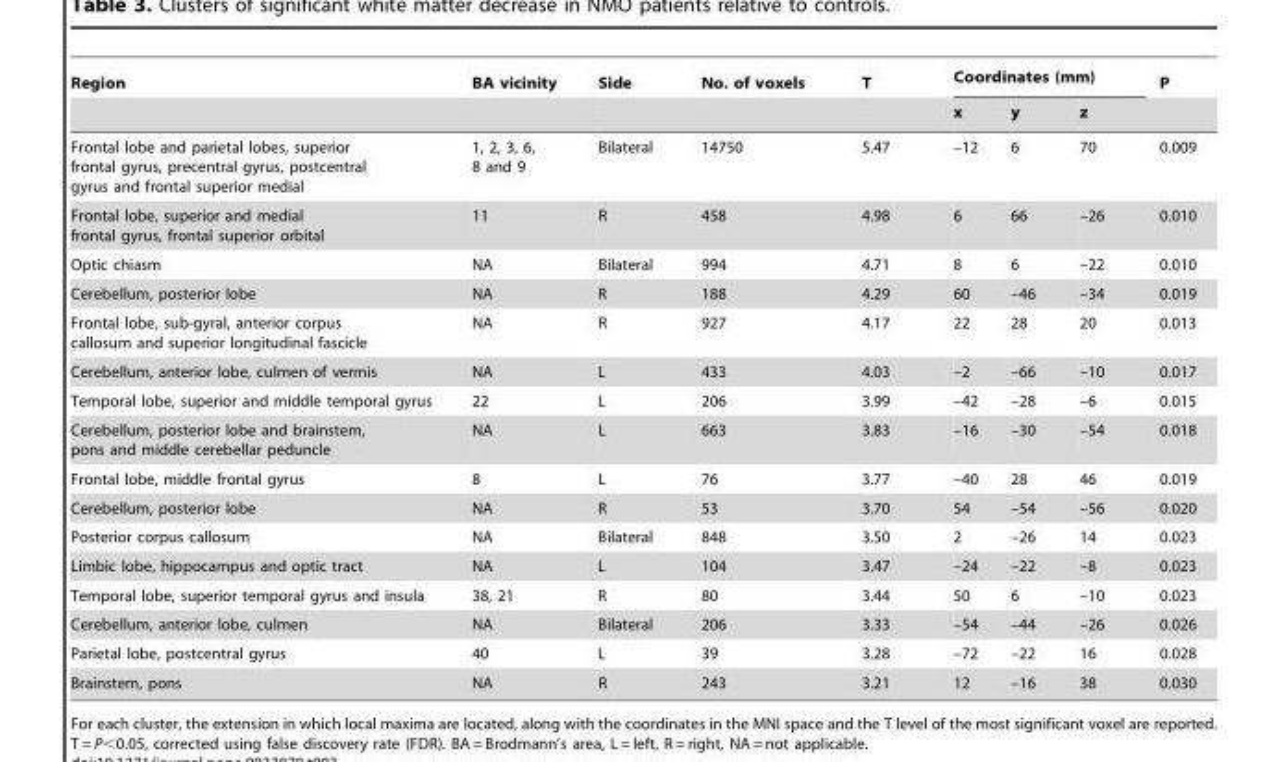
<table><thead><tr><td rowspan="2">Region</td><td rowspan="2">BA vicinity</td><td rowspan="2">Side</td><td rowspan="2">No. of voxels</td><td rowspan="2">T</td><td colspan="3">Coordinates (mm)</td><td rowspan="2">P</td></tr><tr><td>x</td><td>y</td><td>z</td></tr></thead><tbody><tr><td>Frontal lobe and parietal lobes, superior frontal gyrus, precentral gyrus, postcentral gyrus and frontal superior medial</td><td>1, 2, 3, 6, 8 and 9</td><td>Bilateral</td><td>14750</td><td>5.47</td><td>–12</td><td>6</td><td>70</td><td>0.009</td></tr><tr><td>Frontal lobe, superior and medial frontal gyrus, frontal superior orbital</td><td>11</td><td>R</td><td>458</td><td>4.98</td><td>6</td><td>66</td><td>–26</td><td>0.010</td></tr><tr><td>Optic chiasm</td><td>NA</td><td>Bilateral</td><td>994</td><td>4.71</td><td>8</td><td>6</td><td>–22</td><td>0.010</td></tr><tr><td>Cerebellum, posterior lobe</td><td>NA</td><td>R</td><td>188</td><td>4.29</td><td>60</td><td>–46</td><td>–34</td><td>0.019</td></tr><tr><td>Frontal lobe, sub-gyral, anterior corpus callosum and superior longitudinal fascicle</td><td>NA</td><td>R</td><td>927</td><td>4.17</td><td>22</td><td>28</td><td>20</td><td>0.013</td></tr><tr><td>Cerebellum, anterior lobe, culmen of vermis</td><td>NA</td><td>L</td><td>433</td><td>4.03</td><td>–2</td><td>–66</td><td>–10</td><td>0.017</td></tr><tr><td>Temporal lobe, superior and middle temporal gyrus</td><td>22</td><td>L</td><td>206</td><td>3.99</td><td>–42</td><td>–28</td><td>–6</td><td>0.015</td></tr><tr><td>Cerebellum, posterior lobe and brainstem, pons and middle cerebellar peduncle</td><td>NA</td><td>L</td><td>663</td><td>3.83</td><td>–16</td><td>–30</td><td>–54</td><td>0.018</td></tr><tr><td>Frontal lobe, middle frontal gyrus</td><td>8</td><td>L</td><td>76</td><td>3.77</td><td>–40</td><td>28</td><td>46</td><td>0.019</td></tr><tr><td>Cerebellum, posterior lobe</td><td>NA</td><td>R</td><td>53</td><td>3.70</td><td>54</td><td>–54</td><td>–56</td><td>0.020</td></tr><tr><td>Posterior corpus callosum</td><td>NA</td><td>Bilateral</td><td>848</td><td>3.50</td><td>2</td><td>–26</td><td>14</td><td>0.023</td></tr><tr><td>Limbic lobe, hippocampus and optic tract</td><td>NA</td><td>L</td><td>104</td><td>3.47</td><td>–24</td><td>–22</td><td>–8</td><td>0.023</td></tr><tr><td>Temporal lobe, superior temporal gyrus and insula</td><td>38, 21</td><td>R</td><td>80</td><td>3.44</td><td>50</td><td>6</td><td>–10</td><td>0.023</td></tr><tr><td>Cerebellum, anterior lobe, culmen</td><td>NA</td><td>Bilateral</td><td>206</td><td>3.33</td><td>–54</td><td>–44</td><td>–26</td><td>0.026</td></tr><tr><td>Parietal lobe, postcentral gyrus</td><td>40</td><td>L</td><td>39</td><td>3.28</td><td>–72</td><td>–22</td><td>16</td><td>0.028</td></tr><tr><td>Brainstem, pons</td><td>NA</td><td>R</td><td>243</td><td>3.21</td><td>12</td><td>–16</td><td>38</td><td>0.030</td></tr></tbody></table>